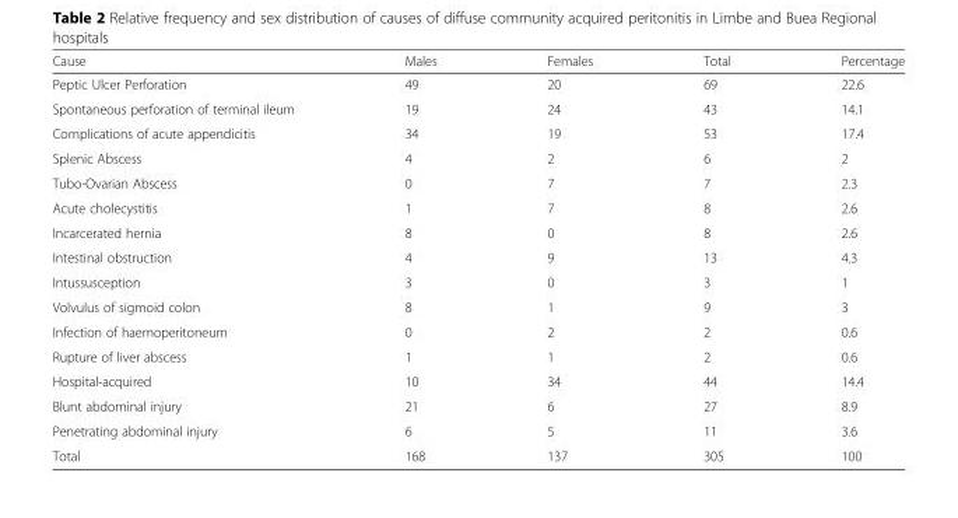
<table><thead><tr><td>Cause</td><td>Males</td><td>Females</td><td>Total</td><td>Percentage</td></tr></thead><tbody><tr><td>Peptic Ulcer Perforation</td><td>49</td><td>20</td><td>69</td><td>22.6</td></tr><tr><td>Spontaneous perforation of terminal ileum</td><td>19</td><td>24</td><td>43</td><td>14.1</td></tr><tr><td>Complications of acute appendicitis</td><td>34</td><td>19</td><td>53</td><td>17.4</td></tr><tr><td>Splenic Abscess</td><td>4</td><td>2</td><td>6</td><td>2</td></tr><tr><td>Tubo-Ovarian Abscess</td><td>0</td><td>7</td><td>7</td><td>2.3</td></tr><tr><td>Acute cholecystitis</td><td>1</td><td>7</td><td>8</td><td>2.6</td></tr><tr><td>Incarcerated hernia</td><td>8</td><td>0</td><td>8</td><td>2.6</td></tr><tr><td>Intestinal obstruction</td><td>4</td><td>9</td><td>13</td><td>4.3</td></tr><tr><td>Intussusception</td><td>3</td><td>0</td><td>3</td><td>1</td></tr><tr><td>Volvulus of sigmoid colon</td><td>8</td><td>1</td><td>9</td><td>3</td></tr><tr><td>Infection of haemoperitoneum</td><td>0</td><td>2</td><td>2</td><td>0.6</td></tr><tr><td>Rupture of liver abscess</td><td>1</td><td>1</td><td>2</td><td>0.6</td></tr><tr><td>Hospital-acquired</td><td>10</td><td>34</td><td>44</td><td>14.4</td></tr><tr><td>Blunt abdominal injury</td><td>21</td><td>6</td><td>27</td><td>8.9</td></tr><tr><td>Penetrating abdominal injury</td><td>6</td><td>5</td><td>11</td><td>3.6</td></tr><tr><td>Total</td><td>168</td><td>137</td><td>305</td><td>100</td></tr></tbody></table>